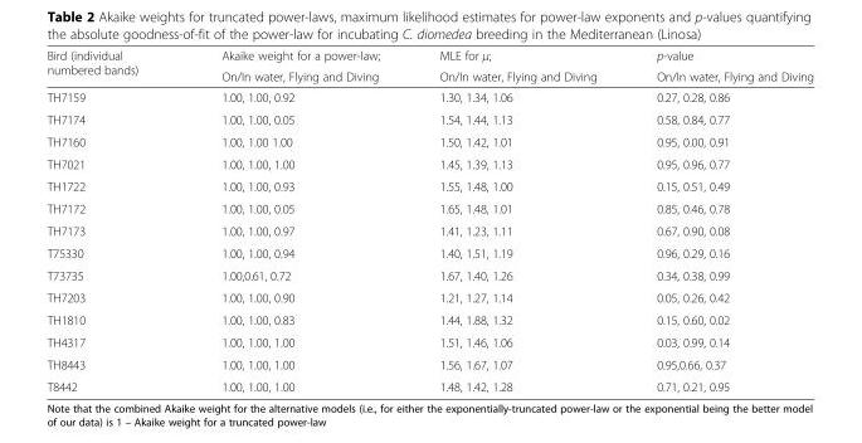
<table><thead><tr><td rowspan="2">Bird (individual numbered bands)</td><td rowspan="2">Akaike weight for a power-law; On/In water, Flying and Diving</td><td rowspan="2">MLE for μ; On/In water, Flying and Diving</td><td rowspan="2">p-value On/In water, Flying and Diving</td></tr><tr></tr></thead><tbody><tr><td>TH7159</td><td>1.00, 1.00, 0.92</td><td>1.30, 1.34, 1.06</td><td>0.27, 0.28, 0.86</td></tr><tr><td>TH7174</td><td>1.00, 1.00, 0.05</td><td>1.54, 1.44, 1.13</td><td>0.58, 0.84, 0.77</td></tr><tr><td>TH7160</td><td>1.00, 1.00 1.00</td><td>1.50, 1.42, 1.01</td><td>0.95, 0.00, 0.91</td></tr><tr><td>TH7021</td><td>1.00, 1.00, 1.00</td><td>1.45, 1.39, 1.13</td><td>0.95, 0.96, 0.77</td></tr><tr><td>TH1722</td><td>1.00, 1.00, 0.93</td><td>1.55, 1.48, 1.00</td><td>0.15, 0.51, 0.49</td></tr><tr><td>TH7172</td><td>1.00, 1.00, 0.05</td><td>1.65, 1.48, 1.01</td><td>0.85, 0.46, 0.78</td></tr><tr><td>TH7173</td><td>1.00, 1.00, 0.97</td><td>1.41, 1.23, 1.11</td><td>0.67, 0.90, 0.08</td></tr><tr><td>T75330</td><td>1.00, 1.00, 0.94</td><td>1.40, 1.51, 1.19</td><td>0.96, 0.29, 0.16</td></tr><tr><td>T73735</td><td>1.00,0.61, 0.72</td><td>1.67, 1.40, 1.26</td><td>0.34, 0.38, 0.99</td></tr><tr><td>TH7203</td><td>1.00, 1.00, 0.90</td><td>1.21, 1.27, 1.14</td><td>0.05, 0.26, 0.42</td></tr><tr><td>TH1810</td><td>1.00, 1.00, 0.83</td><td>1.44, 1.88, 1.32</td><td>0.15, 0.60, 0.02</td></tr><tr><td>TH4317</td><td>1.00, 1.00, 1.00</td><td>1.51, 1.46, 1.06</td><td>0.03, 0.99, 0.14</td></tr><tr><td>TH8443</td><td>1.00, 1.00, 1.00</td><td>1.56, 1.67, 1.07</td><td>0.95,0.66, 0.37</td></tr><tr><td>T8442</td><td>1.00, 1.00, 1.00</td><td>1.48, 1.42, 1.28</td><td>0.71, 0.21, 0.95</td></tr></tbody></table>